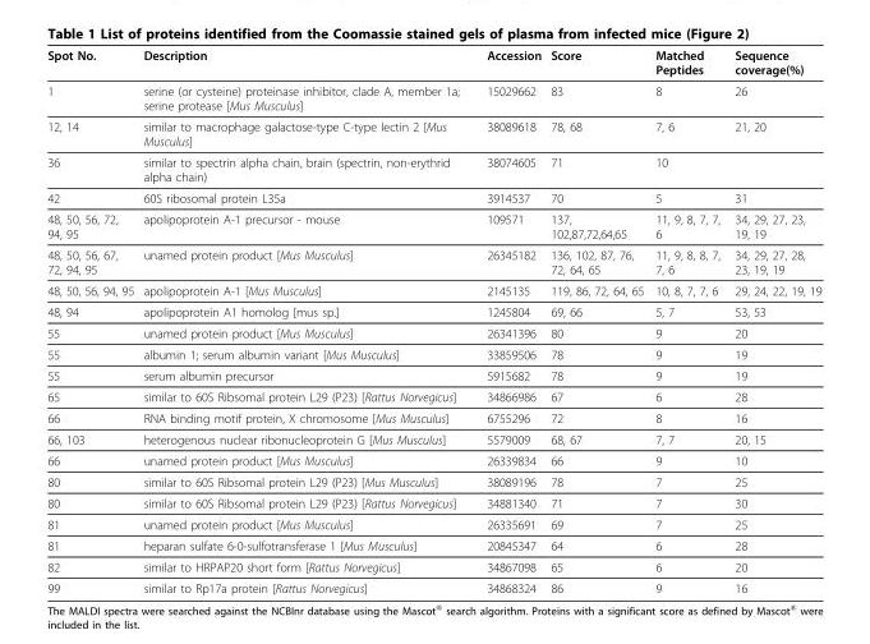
<table><thead><tr><td>Spot No.</td><td>Description</td><td>Accession</td><td>Score</td><td>Matched Peptides</td><td>Sequence coverage(%)</td></tr></thead><tbody><tr><td>1</td><td>serine (or cysteine) proteinase inhibitor, clade A, member 1a; serine protease [Mus Musculus]</td><td>15029662</td><td>83</td><td>8</td><td>26</td></tr><tr><td>12, 14</td><td>similar to macrophage galactose-type C-type lectin 2 [Mus Musculus]</td><td>38089618</td><td>78, 68</td><td>7, 6</td><td>21, 20</td></tr><tr><td>36</td><td>similar to spectrin alpha chain, brain (spectrin, non-erythrid alpha chain)</td><td>38074605</td><td>71</td><td>10</td><td></td></tr><tr><td>42</td><td>60S ribosomal protein L35a</td><td>3914537</td><td>70</td><td>5</td><td>31</td></tr><tr><td>48, 50, 56, 72, 94, 95</td><td>apolipoprotein A-1 precursor - mouse</td><td>109571</td><td>137, 102,87,72,64,65</td><td>11, 9, 8, 7, 7, 6</td><td>34, 29, 27, 23, 19, 19</td></tr><tr><td>48, 50, 56, 67, 72, 94, 95</td><td>unamed protein product [Mus Musculus]</td><td>26345182</td><td>136, 102, 87, 76, 72, 64, 65</td><td>11, 9, 8, 8, 7, 7, 6</td><td>34, 29, 27, 28, 23, 19, 19</td></tr><tr><td>48, 50, 56, 94, 95</td><td>apolipoprotein A-1 [Mus Musculus]</td><td>2145135</td><td>119, 86, 72, 64, 65</td><td>10, 8, 7, 7, 6</td><td>29, 24, 22, 19, 19</td></tr><tr><td>48, 94</td><td>apolipoprotein A1 homolog [mus sp.]</td><td>1245804</td><td>69, 66</td><td>5, 7</td><td>53, 53</td></tr><tr><td>55</td><td>unamed protein product [Mus Musculus]</td><td>26341396</td><td>80</td><td>9</td><td>20</td></tr><tr><td>55</td><td>albumin 1; serum albumin variant [Mus Musculus]</td><td>33859506</td><td>78</td><td>9</td><td>19</td></tr><tr><td>55</td><td>serum albumin precursor</td><td>5915682</td><td>78</td><td>9</td><td>19</td></tr><tr><td>65</td><td>similar to 60S Ribsomal protein L29 (P23) [Rattus Norvegicus]</td><td>34866986</td><td>67</td><td>6</td><td>28</td></tr><tr><td>66</td><td>RNA binding motif protein, X chromosome [Mus Musculus]</td><td>6755296</td><td>72</td><td>8</td><td>16</td></tr><tr><td>66, 103</td><td>heterogenous nuclear ribonucleoprotein G [Mus Musculus]</td><td>5579009</td><td>68, 67</td><td>7, 7</td><td>20, 15</td></tr><tr><td>66</td><td>unamed protein product [Mus Musculus]</td><td>26339834</td><td>66</td><td>9</td><td>10</td></tr><tr><td>80</td><td>similar to 60S Ribsomal protein L29 (P23) [Mus Musculus]</td><td>38089196</td><td>78</td><td>7</td><td>25</td></tr><tr><td>80</td><td>similar to 60S Ribsomal protein L29 (P23) [Rattus Norvegicus]</td><td>34881340</td><td>71</td><td>7</td><td>30</td></tr><tr><td>81</td><td>unamed protein product [Mus Musculus]</td><td>26335691</td><td>69</td><td>7</td><td>25</td></tr><tr><td>81</td><td>heparan sulfate 6-0-sulfotransferase 1 [Mus Musculus]</td><td>20845347</td><td>64</td><td>6</td><td>28</td></tr><tr><td>82</td><td>similar to HRPAP20 short form [Rattus Norvegicus]</td><td>34867098</td><td>65</td><td>6</td><td>20</td></tr><tr><td>99</td><td>similar to Rp17a protein [Rattus Norvegicus]</td><td>34868324</td><td>86</td><td>9</td><td>16</td></tr></tbody></table>